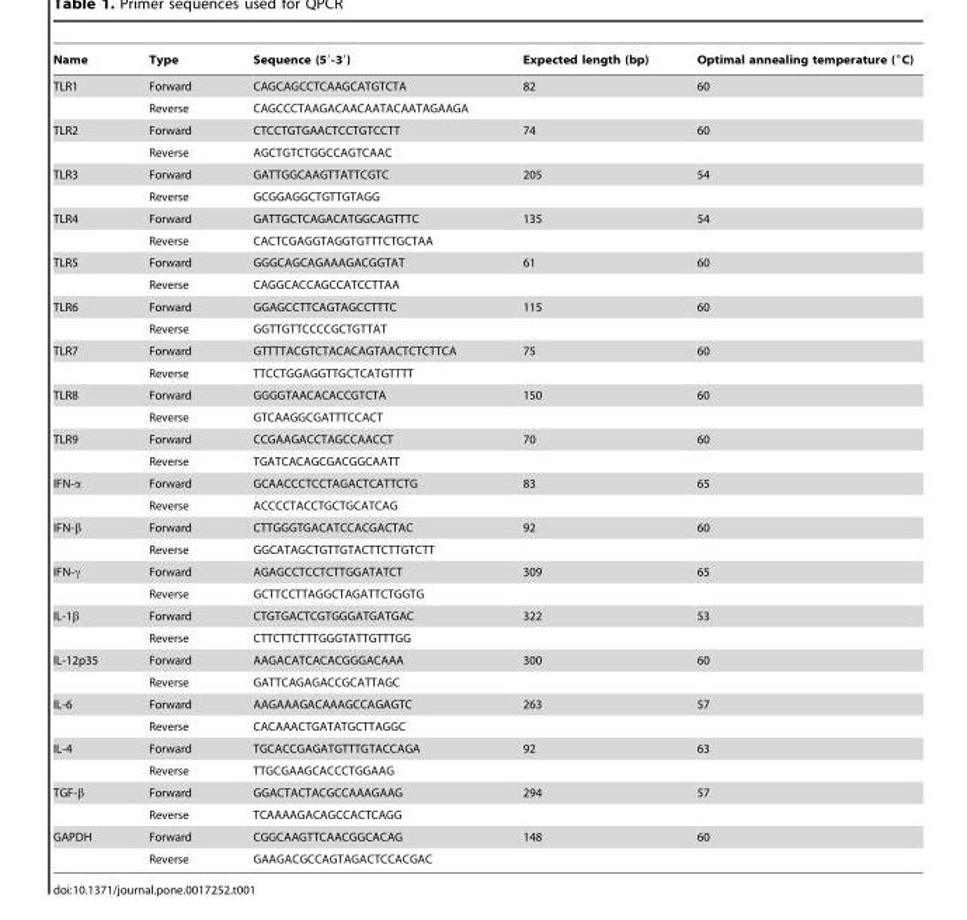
<table><thead><tr><td>Name</td><td>Type</td><td>Sequence (5′-3′)</td><td>Expected length (bp)</td><td>Optimal annealing temperature (°C)</td></tr></thead><tbody><tr><td rowspan="2">TLR1</td><td>Forward</td><td>CAGCAGCCTCAAGCATGTCTA</td><td>82</td><td>60</td></tr><tr><td>Reverse</td><td>CAGCCCTAAGACAACAATACAATAGAAGA</td><td></td><td></td></tr><tr><td rowspan="2">TLR2</td><td>Forward</td><td>CTCCTGTGAACTCCTGTCCTT</td><td>74</td><td>60</td></tr><tr><td>Reverse</td><td>AGCTGTCTGGCCAGTCAAC</td><td></td><td></td></tr><tr><td rowspan="2">TLR3</td><td>Forward</td><td>GATTGGCAAGTTATTCGTC</td><td>205</td><td>54</td></tr><tr><td>Reverse</td><td>GCGGAGGCTGTTGTAGG</td><td></td><td></td></tr><tr><td rowspan="2">TLR4</td><td>Forward</td><td>GATTGCTCAGACATGGCAGTTTC</td><td>135</td><td>54</td></tr><tr><td>Reverse</td><td>CACTCGAGGTAGGTGTTTCTGCTAA</td><td></td><td></td></tr><tr><td rowspan="2">TLR5</td><td>Forward</td><td>GGGCAGCAGAAAGACGGTAT</td><td>61</td><td>60</td></tr><tr><td>Reverse</td><td>CAGGCACCAGCCATCCTTAA</td><td></td><td></td></tr><tr><td rowspan="2">TLR6</td><td>Forward</td><td>GGAGCCTTCAGTAGCCTTTC</td><td>115</td><td>60</td></tr><tr><td>Reverse</td><td>GGTTGTTCCCCGCTGTTAT</td><td></td><td></td></tr><tr><td rowspan="2">TLR7</td><td>Forward</td><td>GTTTTACGTCTACACAGTAACTCTCTTCA</td><td>75</td><td>60</td></tr><tr><td>Reverse</td><td>TTCCTGGAGGTTGCTCATGTTTT</td><td></td><td></td></tr><tr><td rowspan="2">TLR8</td><td>Forward</td><td>GGGGTAACACACCGTCTA</td><td>150</td><td>60</td></tr><tr><td>Reverse</td><td>GTCAAGGCGATTTCCACT</td><td></td><td></td></tr><tr><td rowspan="2">TLR9</td><td>Forward</td><td>CCGAAGACCTAGCCAACCT</td><td>70</td><td>60</td></tr><tr><td>Reverse</td><td>TGATCACAGCGACGGCAATT</td><td></td><td></td></tr><tr><td rowspan="2">IFN-α</td><td>Forward</td><td>GCAACCCTCCTAGACTCATTCTG</td><td>83</td><td>65</td></tr><tr><td>Reverse</td><td>ACCCCTACCTGCTGCATCAG</td><td></td><td></td></tr><tr><td rowspan="2">IFN-β</td><td>Forward</td><td>CTTGGGTGACATCCACGACTAC</td><td>92</td><td>60</td></tr><tr><td>Reverse</td><td>GGCATAGCTGTTGTACTTCTTGTCTT</td><td></td><td></td></tr><tr><td rowspan="2">IFN-γ</td><td>Forward</td><td>AGAGCCTCCTCTTGGATATCT</td><td>309</td><td>65</td></tr><tr><td>Reverse</td><td>GCTTCCTTAGGCTAGATTCTGGTG</td><td></td><td></td></tr><tr><td rowspan="2">IL-1β</td><td>Forward</td><td>CTGTGACTCGTGGGATGATGAC</td><td>322</td><td>53</td></tr><tr><td>Reverse</td><td>CTTCTTCTTTGGGTATTGTTTGG</td><td></td><td></td></tr><tr><td rowspan="2">IL-12p35</td><td>Forward</td><td>AAGACATCACACGGGACAAA</td><td>300</td><td>60</td></tr><tr><td>Reverse</td><td>GATTCAGAGACCGCATTAGC</td><td></td><td></td></tr><tr><td rowspan="2">IL-6</td><td>Forward</td><td>AAGAAAGACAAAGCCAGAGTC</td><td>263</td><td>57</td></tr><tr><td>Reverse</td><td>CACAAACTGATATGCTTAGGC</td><td></td><td></td></tr><tr><td rowspan="2">IL-4</td><td>Forward</td><td>TGCACCGAGATGTTTGTACCAGA</td><td>92</td><td>63</td></tr><tr><td>Reverse</td><td>TTGCGAAGCACCCTGGAAG</td><td></td><td></td></tr><tr><td rowspan="2">TGF-β</td><td>Forward</td><td>GGACTACTACGCCAAAGAAG</td><td>294</td><td>57</td></tr><tr><td>Reverse</td><td>TCAAAAGACAGCCACTCAGG</td><td></td><td></td></tr><tr><td rowspan="2">GAPDH</td><td>Forward</td><td>CGGCAAGTTCAACGGCACAG</td><td>148</td><td>60</td></tr><tr><td>Reverse</td><td>GAAGACGCCAGTAGACTCCACGAC</td><td></td><td></td></tr></tbody></table>